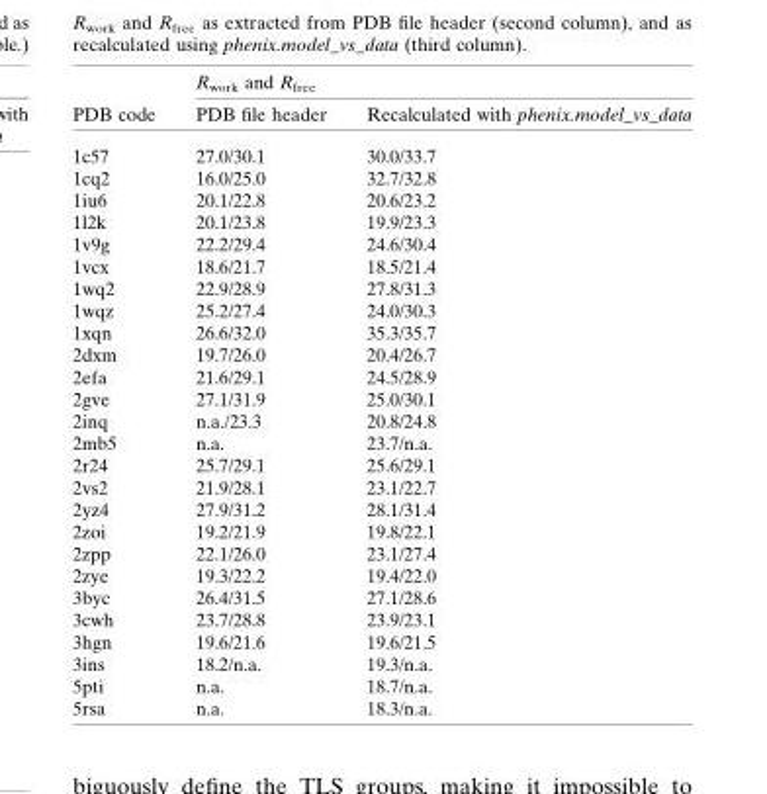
<table><thead><tr><td rowspan="2">PDB code</td><td colspan="2">R<sub>work</sub> and R<sub>free</sub></td></tr><tr><td>PDB file header</td><td>Recalculated with phenix.model_vs_data</td></tr></thead><tbody><tr><td>1c57</td><td>27.0/30.1</td><td>30.0/33.7</td></tr><tr><td>1cq2</td><td>16.0/25.0</td><td>32.7/32.8</td></tr><tr><td>1iu6</td><td>20.1/22.8</td><td>20.6/23.2</td></tr><tr><td>1l2k</td><td>20.1/23.8</td><td>19.9/23.3</td></tr><tr><td>1v9g</td><td>22.2/29.4</td><td>24.6/30.4</td></tr><tr><td>1vcx</td><td>18.6/21.7</td><td>18.5/21.4</td></tr><tr><td>1wq2</td><td>22.9/28.9</td><td>27.8/31.3</td></tr><tr><td>1wqz</td><td>25.2/27.4</td><td>24.0/30.3</td></tr><tr><td>1xqn</td><td>26.6/32.0</td><td>35.3/35.7</td></tr><tr><td>2dxm</td><td>19.7/26.0</td><td>20.4/26.7</td></tr><tr><td>2efa</td><td>21.6/29.1</td><td>24.5/28.9</td></tr><tr><td>2gve</td><td>27.1/31.9</td><td>25.0/30.1</td></tr><tr><td>2inq</td><td>n.a./23.3</td><td>20.8/24.8</td></tr><tr><td>2mb5</td><td>n.a.</td><td>23.7/n.a.</td></tr><tr><td>2r24</td><td>25.7/29.1</td><td>25.6/29.1</td></tr><tr><td>2vs2</td><td>21.9/28.1</td><td>23.1/22.7</td></tr><tr><td>2yz4</td><td>27.9/31.2</td><td>28.1/31.4</td></tr><tr><td>2zoi</td><td>19.2/21.9</td><td>19.8/22.1</td></tr><tr><td>2zpp</td><td>22.1/26.0</td><td>23.1/27.4</td></tr><tr><td>2zye</td><td>19.3/22.2</td><td>19.4/22.0</td></tr><tr><td>3byc</td><td>26.4/31.5</td><td>27.1/28.6</td></tr><tr><td>3cwh</td><td>23.7/28.8</td><td>23.9/23.1</td></tr><tr><td>3hgn</td><td>19.6/21.6</td><td>19.6/21.5</td></tr><tr><td>3ins</td><td>18.2/n.a.</td><td>19.3/n.a.</td></tr><tr><td>5pti</td><td>n.a.</td><td>18.7/n.a.</td></tr><tr><td>5rsa</td><td>n.a.</td><td>18.3/n.a.</td></tr></tbody></table>